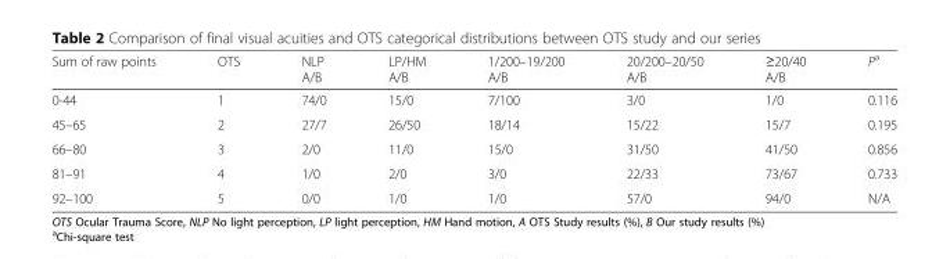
<table><thead><tr><td>Sum of raw points</td><td>OTS</td><td>NLP A/B</td><td>LP/HM A/B</td><td>1/200–19/200 A/B</td><td>20/200–20/50 A/B</td><td>≥20/40 A/B</td><td>P<sup>a</sup></td></tr></thead><tbody><tr><td>0-44</td><td>1</td><td>74/0</td><td>15/0</td><td>7/100</td><td>3/0</td><td>1/0</td><td>0.116</td></tr><tr><td>45–65</td><td>2</td><td>27/7</td><td>26/50</td><td>18/14</td><td>15/22</td><td>15/7</td><td>0.195</td></tr><tr><td>66–80</td><td>3</td><td>2/0</td><td>11/0</td><td>15/0</td><td>31/50</td><td>41/50</td><td>0.856</td></tr><tr><td>81–91</td><td>4</td><td>1/0</td><td>2/0</td><td>3/0</td><td>22/33</td><td>73/67</td><td>0.733</td></tr><tr><td>92–100</td><td>5</td><td>0/0</td><td>1/0</td><td>1/0</td><td>57/0</td><td>94/0</td><td>N/A</td></tr></tbody></table>